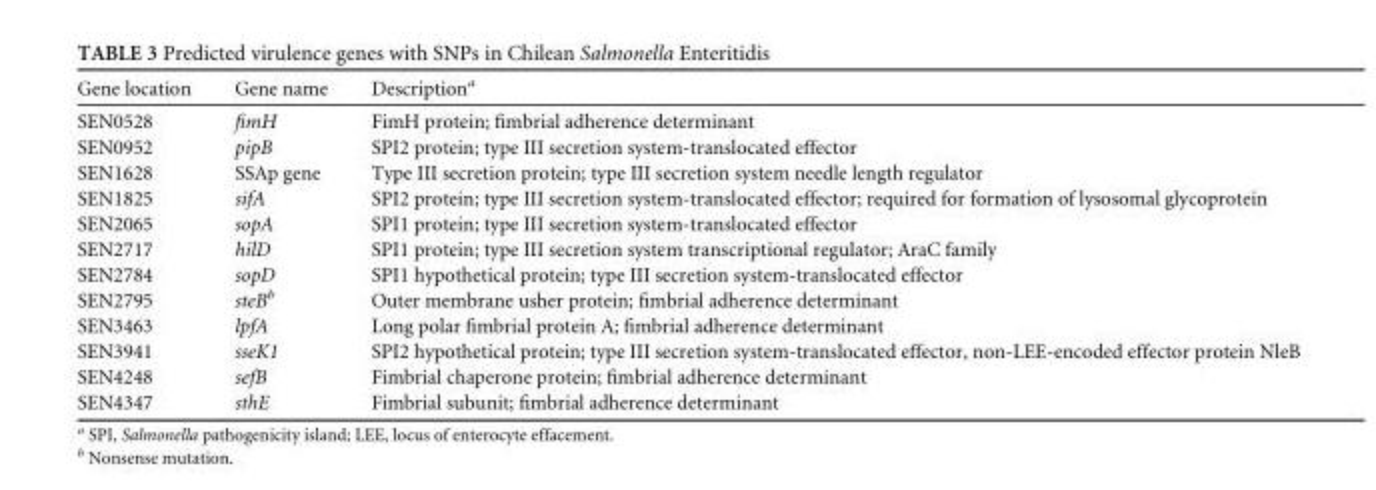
<table><thead><tr><td>Gene location</td><td>Gene name</td><td>Description<sup>a</sup></td></tr></thead><tbody><tr><td>SEN0528</td><td>fimH</td><td>FimH protein; fimbrial adherence determinant</td></tr><tr><td>SEN0952</td><td>pipB</td><td>SPI2 protein; type III secretion system-translocated effector</td></tr><tr><td>SEN1628</td><td>SSAp gene</td><td>Type III secretion protein; type III secretion system needle length regulator</td></tr><tr><td>SEN1825</td><td>sifA</td><td>SPI2 protein; type III secretion system-translocated effector; required for formation of lysosomal glycoprotein</td></tr><tr><td>SEN2065</td><td>sopA</td><td>SPI1 protein; type III secretion system-translocated effector</td></tr><tr><td>SEN2717</td><td>hilD</td><td>SPI1 protein; type III secretion system transcriptional regulator; AraC family</td></tr><tr><td>SEN2784</td><td>sopD</td><td>SPI1 hypothetical protein; type III secretion system-translocated effector</td></tr><tr><td>SEN2795</td><td>steB<sup>b</sup></td><td>Outer membrane usher protein; fimbrial adherence determinant</td></tr><tr><td>SEN3463</td><td>lpfA</td><td>Long polar fimbrial protein A; fimbrial adherence determinant</td></tr><tr><td>SEN3941</td><td>sseK1</td><td>SPI2 hypothetical protein; type III secretion system-translocated effector, non-LEE-encoded effector protein NleB</td></tr><tr><td>SEN4248</td><td>sefB</td><td>Fimbrial chaperone protein; fimbrial adherence determinant</td></tr><tr><td>SEN4347</td><td>sthE</td><td>Fimbrial subunit; fimbrial adherence determinant</td></tr></tbody></table>